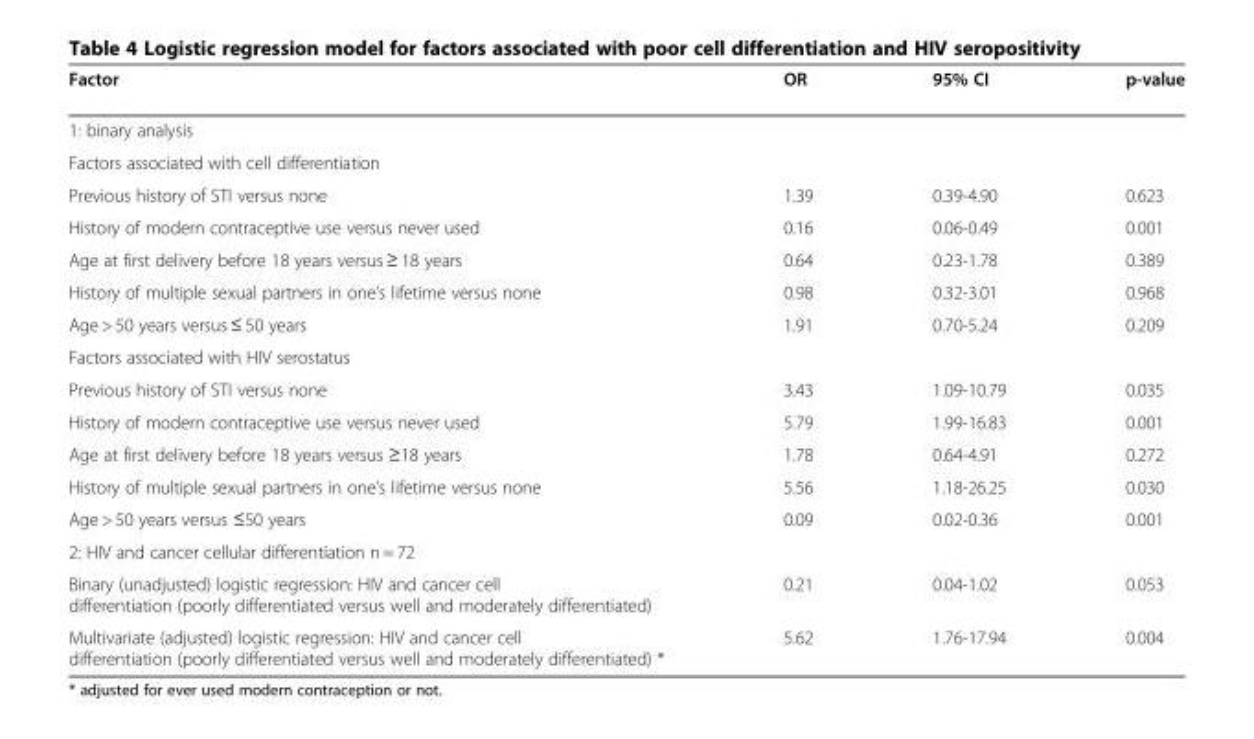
<table><thead><tr><td>Factor</td><td>OR</td><td>95% CI</td><td>p-value</td></tr></thead><tbody><tr><td colspan="4">1: binary analysis</td></tr><tr><td colspan="4">Factors associated with cell differentiation</td></tr><tr><td>Previous history of STI versus none</td><td>1.39</td><td>0.39-4.90</td><td>0.623</td></tr><tr><td>History of modern contraceptive use versus never used</td><td>0.16</td><td>0.06-0.49</td><td>0.001</td></tr><tr><td>Age at first delivery before 18 years versus ≥ 18 years</td><td>0.64</td><td>0.23-1.78</td><td>0.389</td></tr><tr><td>History of multiple sexual partners in one’s lifetime versus none</td><td>0.98</td><td>0.32-3.01</td><td>0.968</td></tr><tr><td>Age &gt; 50 years versus ≤ 50 years</td><td>1.91</td><td>0.70-5.24</td><td>0.209</td></tr><tr><td colspan="4">Factors associated with HIV serostatus</td></tr><tr><td>Previous history of STI versus none</td><td>3.43</td><td>1.09-10.79</td><td>0.035</td></tr><tr><td>History of modern contraceptive use versus never used</td><td>5.79</td><td>1.99-16.83</td><td>0.001</td></tr><tr><td>Age at first delivery before 18 years versus ≥18 years</td><td>1.78</td><td>0.64-4.91</td><td>0.272</td></tr><tr><td>History of multiple sexual partners in one’s lifetime versus none</td><td>5.56</td><td>1.18-26.25</td><td>0.030</td></tr><tr><td>Age &gt; 50 years versus ≤50 years</td><td>0.09</td><td>0.02-0.36</td><td>0.001</td></tr><tr><td colspan="4">2: HIV and cancer cellular differentiation n = 72</td></tr><tr><td>Binary (unadjusted) logistic regression: HIV and cancer cell differentiation (poorly differentiated versus well and moderately differentiated)</td><td>0.21</td><td>0.04-1.02</td><td>0.053</td></tr><tr><td>Multivariate (adjusted) logistic regression: HIV and cancer cell differentiation (poorly differentiated versus well and moderately differentiated) *</td><td>5.62</td><td>1.76-17.94</td><td>0.004</td></tr></tbody></table>